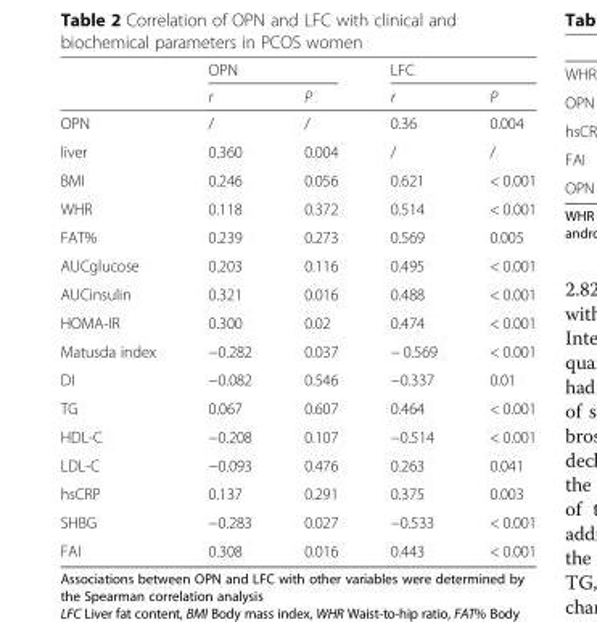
<table><thead><tr><td rowspan="2"></td><td colspan="2">OPN</td><td colspan="2">LFC</td></tr><tr><td>r</td><td>P</td><td>r</td><td>P</td></tr></thead><tbody><tr><td>OPN</td><td>/</td><td>/</td><td>0.36</td><td>0.004</td></tr><tr><td>liver</td><td>0.360</td><td>0.004</td><td>/</td><td>/</td></tr><tr><td>BMI</td><td>0.246</td><td>0.056</td><td>0.621</td><td>&lt; 0.001</td></tr><tr><td>WHR</td><td>0.118</td><td>0.372</td><td>0.514</td><td>&lt; 0.001</td></tr><tr><td>FAT%</td><td>0.239</td><td>0.273</td><td>0.569</td><td>0.005</td></tr><tr><td>AUCglucose</td><td>0.203</td><td>0.116</td><td>0.495</td><td>&lt; 0.001</td></tr><tr><td>AUCinsulin</td><td>0.321</td><td>0.016</td><td>0.488</td><td>&lt; 0.001</td></tr><tr><td>HOMA-IR</td><td>0.300</td><td>0.02</td><td>0.474</td><td>&lt; 0.001</td></tr><tr><td>Matusda index</td><td>−0.282</td><td>0.037</td><td>− 0.569</td><td>&lt; 0.001</td></tr><tr><td>DI</td><td>−0.082</td><td>0.546</td><td>−0.337</td><td>0.01</td></tr><tr><td>TG</td><td>0.067</td><td>0.607</td><td>0.464</td><td>&lt; 0.001</td></tr><tr><td>HDL-C</td><td>−0.208</td><td>0.107</td><td>−0.514</td><td>&lt; 0.001</td></tr><tr><td>LDL-C</td><td>−0.093</td><td>0.476</td><td>0.263</td><td>0.041</td></tr><tr><td>hsCRP</td><td>0.137</td><td>0.291</td><td>0.375</td><td>0.003</td></tr><tr><td>SHBG</td><td>−0.283</td><td>0.027</td><td>−0.533</td><td>&lt; 0.001</td></tr><tr><td>FAI</td><td>0.308</td><td>0.016</td><td>0.443</td><td>&lt; 0.001</td></tr></tbody></table>